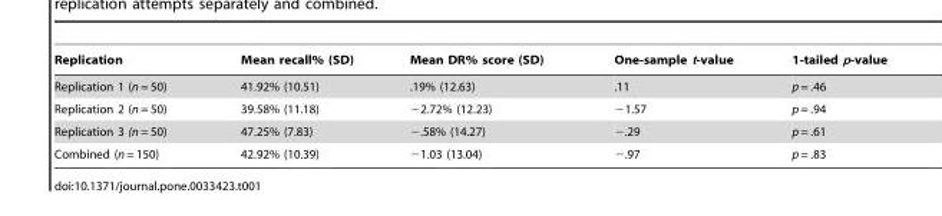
<table><thead><tr><td>Replication</td><td>Mean recall% (SD)</td><td>Mean DR% score (SD)</td><td>One-sample t-value</td><td>1-tailed p-value</td></tr></thead><tbody><tr><td>Replication 1 (n = 50)</td><td>41.92% (10.51)</td><td>.19% (12.63)</td><td>.11</td><td>p = .46</td></tr><tr><td>Replication 2 (n = 50)</td><td>39.58% (11.18)</td><td>−2.72% (12.23)</td><td>−1.57</td><td>p = .94</td></tr><tr><td>Replication 3 (n = 50)</td><td>47.25% (7.83)</td><td>−.58% (14.27)</td><td>−.29</td><td>p = .61</td></tr><tr><td>Combined (n = 150)</td><td>42.92% (10.39)</td><td>−1.03 (13.04)</td><td>−.97</td><td>p = .83</td></tr></tbody></table>